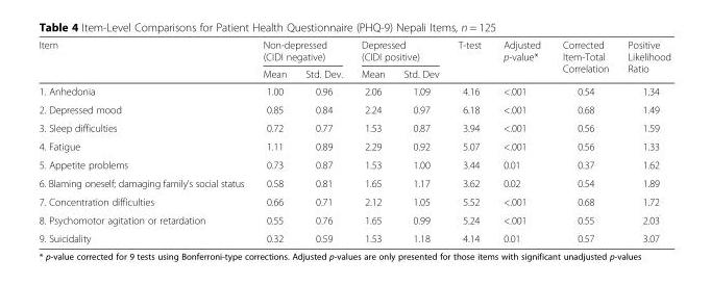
<table><thead><tr><td rowspan="2">Item</td><td colspan="2">Non-depressed (CIDI negative)</td><td colspan="2">Depressed (CIDI positive)</td><td rowspan="2">T-test</td><td rowspan="2">Adjusted p-value*</td><td rowspan="2">Corrected Item-Total Correlation</td><td rowspan="2">Positive Likelihood Ratio</td></tr><tr><td>Mean</td><td>Std. Dev.</td><td>Mean</td><td>Std. Dev</td></tr></thead><tbody><tr><td>1. Anhedonia</td><td>1.00</td><td>0.96</td><td>2.06</td><td>1.09</td><td>4.16</td><td>&lt;.001</td><td>0.54</td><td>1.34</td></tr><tr><td>2. Depressed mood</td><td>0.85</td><td>0.84</td><td>2.24</td><td>0.97</td><td>6.18</td><td>&lt;.001</td><td>0.68</td><td>1.49</td></tr><tr><td>3. Sleep difficulties</td><td>0.72</td><td>0.77</td><td>1.53</td><td>0.87</td><td>3.94</td><td>&lt;.001</td><td>0.56</td><td>1.59</td></tr><tr><td>4. Fatigue</td><td>1.11</td><td>0.89</td><td>2.29</td><td>0.92</td><td>5.07</td><td>&lt;.001</td><td>0.56</td><td>1.33</td></tr><tr><td>5. Appetite problems</td><td>0.73</td><td>0.87</td><td>1.53</td><td>1.00</td><td>3.44</td><td>0.01</td><td>0.37</td><td>1.62</td></tr><tr><td>6. Blaming oneself; damaging family’s social status</td><td>0.58</td><td>0.81</td><td>1.65</td><td>1.17</td><td>3.62</td><td>0.02</td><td>0.54</td><td>1.89</td></tr><tr><td>7. Concentration difficulties</td><td>0.66</td><td>0.71</td><td>2.12</td><td>1.05</td><td>5.52</td><td>&lt;.001</td><td>0.68</td><td>1.72</td></tr><tr><td>8. Psychomotor agitation or retardation</td><td>0.55</td><td>0.76</td><td>1.65</td><td>0.99</td><td>5.24</td><td>&lt;.001</td><td>0.55</td><td>2.03</td></tr><tr><td>9. Suicidality</td><td>0.32</td><td>0.59</td><td>1.53</td><td>1.18</td><td>4.14</td><td>0.01</td><td>0.57</td><td>3.07</td></tr></tbody></table>